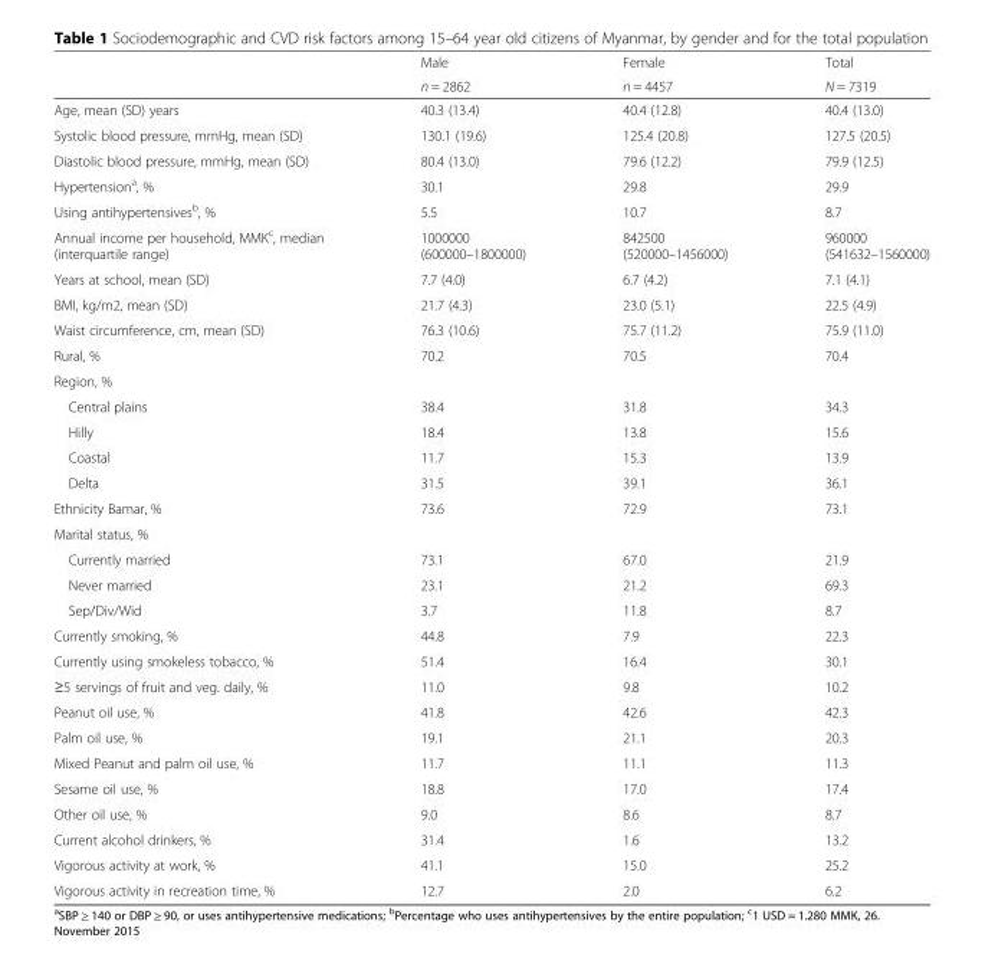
<table><thead><tr><td rowspan="2"></td><td rowspan="2">Male n = 2862</td><td rowspan="2">Female n = 4457</td><td rowspan="2">Total N = 7319</td></tr><tr></tr></thead><tbody><tr><td>Age, mean (SD) years</td><td>40.3 (13.4)</td><td>40.4 (12.8)</td><td>40.4 (13.0)</td></tr><tr><td>Systolic blood pressure, mmHg, mean (SD)</td><td>130.1 (19.6)</td><td>125.4 (20.8)</td><td>127.5 (20.5)</td></tr><tr><td>Diastolic blood pressure, mmHg, mean (SD)</td><td>80.4 (13.0)</td><td>79.6 (12.2)</td><td>79.9 (12.5)</td></tr><tr><td>Hypertension<sup>a</sup>, %</td><td>30.1</td><td>29.8</td><td>29.9</td></tr><tr><td>Using antihypertensives<sup>b</sup>, %</td><td>5.5</td><td>10.7</td><td>8.7</td></tr><tr><td>Annual income per household, MMK<sup>c</sup>, median (interquartile range)</td><td>1000000 (600000–1800000)</td><td>842500 (520000–1456000)</td><td>960000 (541632–1560000)</td></tr><tr><td>Years at school, mean (SD)</td><td>7.7 (4.0)</td><td>6.7 (4.2)</td><td>7.1 (4.1)</td></tr><tr><td>BMI, kg/m2, mean (SD)</td><td>21.7 (4.3)</td><td>23.0 (5.1)</td><td>22.5 (4.9)</td></tr><tr><td>Waist circumference, cm, mean (SD)</td><td>76.3 (10.6)</td><td>75.7 (11.2)</td><td>75.9 (11.0)</td></tr><tr><td>Rural, %</td><td>70.2</td><td>70.5</td><td>70.4</td></tr><tr><td colspan="4">Region, %</td></tr><tr><td>Central plains</td><td>38.4</td><td>31.8</td><td>34.3</td></tr><tr><td>Hilly</td><td>18.4</td><td>13.8</td><td>15.6</td></tr><tr><td>Coastal</td><td>11.7</td><td>15.3</td><td>13.9</td></tr><tr><td>Delta</td><td>31.5</td><td>39.1</td><td>36.1</td></tr><tr><td>Ethnicity Bamar, %</td><td>73.6</td><td>72.9</td><td>73.1</td></tr><tr><td colspan="4">Marital status, %</td></tr><tr><td>Currently married</td><td>73.1</td><td>67.0</td><td>21.9</td></tr><tr><td>Never married</td><td>23.1</td><td>21.2</td><td>69.3</td></tr><tr><td>Sep/Div/Wid</td><td>3.7</td><td>11.8</td><td>8.7</td></tr><tr><td>Currently smoking, %</td><td>44.8</td><td>7.9</td><td>22.3</td></tr><tr><td>Currently using smokeless tobacco, %</td><td>51.4</td><td>16.4</td><td>30.1</td></tr><tr><td>≥5 servings of fruit and veg. daily, %</td><td>11.0</td><td>9.8</td><td>10.2</td></tr><tr><td>Peanut oil use, %</td><td>41.8</td><td>42.6</td><td>42.3</td></tr><tr><td>Palm oil use, %</td><td>19.1</td><td>21.1</td><td>20.3</td></tr><tr><td>Mixed Peanut and palm oil use, %</td><td>11.7</td><td>11.1</td><td>11.3</td></tr><tr><td>Sesame oil use, %</td><td>18.8</td><td>17.0</td><td>17.4</td></tr><tr><td>Other oil use, %</td><td>9.0</td><td>8.6</td><td>8.7</td></tr><tr><td>Current alcohol drinkers, %</td><td>31.4</td><td>1.6</td><td>13.2</td></tr><tr><td>Vigorous activity at work, %</td><td>41.1</td><td>15.0</td><td>25.2</td></tr><tr><td>Vigorous activity in recreation time, %</td><td>12.7</td><td>2.0</td><td>6.2</td></tr></tbody></table>